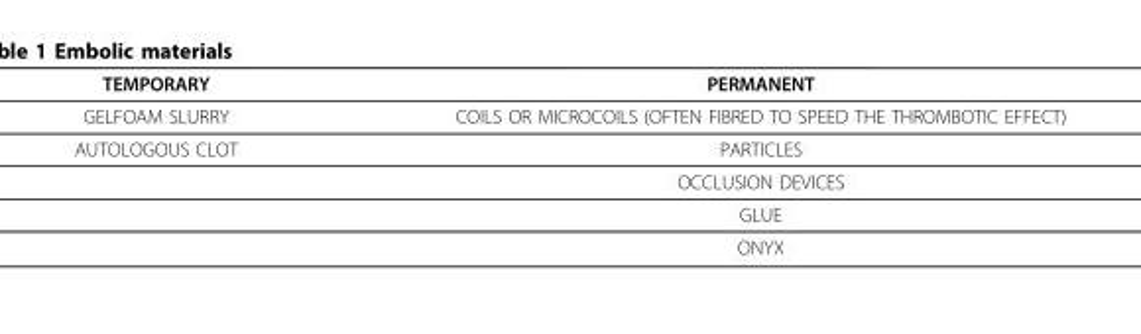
<table><thead><tr><td>TEMPORARY</td><td>PERMANENT</td></tr></thead><tbody><tr><td>GELFOAM SLURRY</td><td>COILS OR MICROCOILS (OFTEN FIBRED TO SPEED THE THROMBOTIC EFFECT)</td></tr><tr><td rowspan="4">AUTOLOGOUS CLOT</td><td>PARTICLES</td></tr><tr><td>OCCLUSION DEVICES</td></tr><tr><td>GLUE</td></tr><tr><td>ONYX</td></tr></tbody></table>